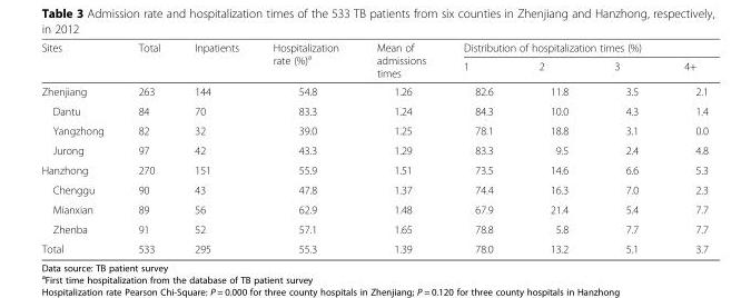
<table><thead><tr><td rowspan="2">Sites</td><td rowspan="2">Total</td><td rowspan="2">Inpatients</td><td rowspan="2">Hospitalization rate (%)<sup>a</sup></td><td rowspan="2">Mean of admissions times</td><td colspan="4">Distribution of hospitalization times (%)</td></tr><tr><td>1</td><td>2</td><td>3</td><td>4+</td></tr></thead><tbody><tr><td>Zhenjiang</td><td>263</td><td>144</td><td>54.8</td><td>1.26</td><td>82.6</td><td>11.8</td><td>3.5</td><td>2.1</td></tr><tr><td>Dantu</td><td>84</td><td>70</td><td>83.3</td><td>1.24</td><td>84.3</td><td>10.0</td><td>4.3</td><td>1.4</td></tr><tr><td>Yangzhong</td><td>82</td><td>32</td><td>39.0</td><td>1.25</td><td>78.1</td><td>18.8</td><td>3.1</td><td>0.0</td></tr><tr><td>Jurong</td><td>97</td><td>42</td><td>43.3</td><td>1.29</td><td>83.3</td><td>9.5</td><td>2.4</td><td>4.8</td></tr><tr><td>Hanzhong</td><td>270</td><td>151</td><td>55.9</td><td>1.51</td><td>73.5</td><td>14.6</td><td>6.6</td><td>5.3</td></tr><tr><td>Chenggu</td><td>90</td><td>43</td><td>47.8</td><td>1.37</td><td>74.4</td><td>16.3</td><td>7.0</td><td>2.3</td></tr><tr><td>Mianxian</td><td>89</td><td>56</td><td>62.9</td><td>1.48</td><td>67.9</td><td>21.4</td><td>5.4</td><td>7.7</td></tr><tr><td>Zhenba</td><td>91</td><td>52</td><td>57.1</td><td>1.65</td><td>78.8</td><td>5.8</td><td>7.7</td><td>7.7</td></tr><tr><td>Total</td><td>533</td><td>295</td><td>55.3</td><td>1.39</td><td>78.0</td><td>13.2</td><td>5.1</td><td>3.7</td></tr></tbody></table>